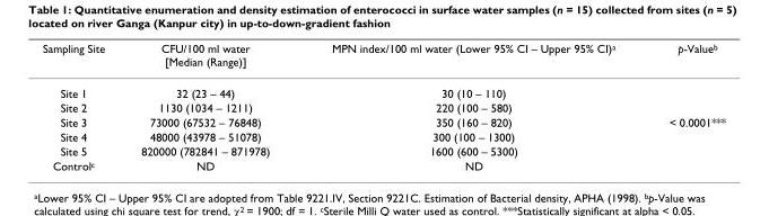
<table><thead><tr><td>Sampling Site</td><td>CFU/100 ml water [Median (Range)]</td><td>MPN index/100 ml water (Lower 95% CI – Upper 95% CI)<sup>a</sup></td><td>p-Value<sup>b</sup></td></tr></thead><tbody><tr><td>Site 1</td><td>32 (23 – 44)</td><td>30 (10 – 110)</td><td></td></tr><tr><td>Site 2</td><td>1130 (1034 – 1211)</td><td>220 (100 – 580)</td><td></td></tr><tr><td>Site 3</td><td>73000 (67532 – 76848)</td><td>350 (160 – 820)</td><td>&lt; 0.0001***</td></tr><tr><td>Site 4</td><td>48000 (43978 – 51078)</td><td>300 (100 – 1300)</td><td></td></tr><tr><td>Site 5</td><td>820000 (782841 – 871978)</td><td>1600 (600 – 5300)</td><td></td></tr><tr><td>Control<sup>c</sup></td><td>ND</td><td>ND</td><td></td></tr></tbody></table>